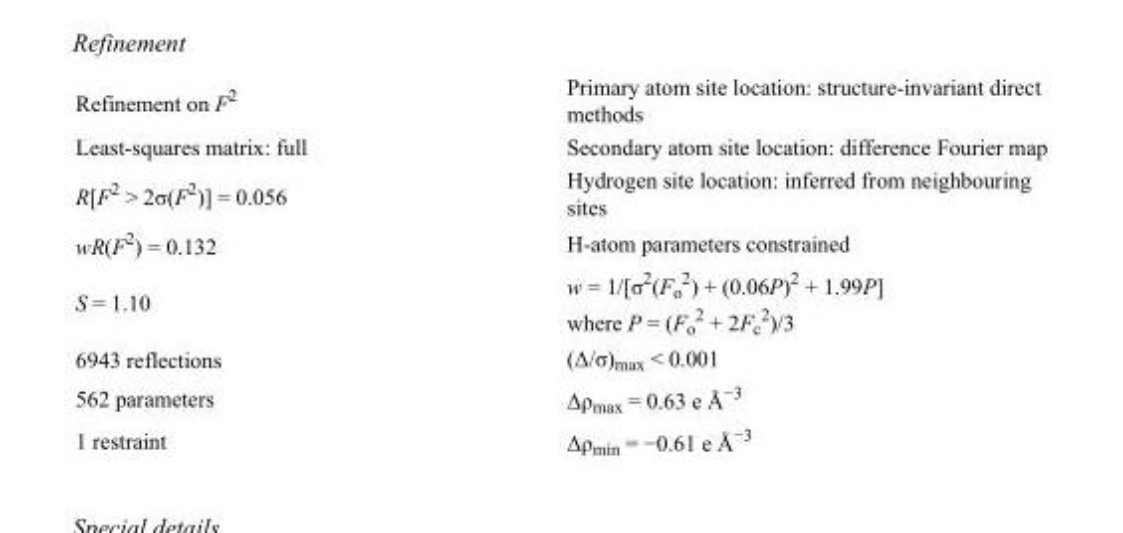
<table><tbody><tr><td>Refinement on F<sup>2</sup></td><td>Primary atom site location: structure-invariant direct methods</td></tr><tr><td>Least-squares matrix: full</td><td>Secondary atom site location: difference Fourier map</td></tr><tr><td>R[F<sup>2</sup> &gt; 2σ(F<sup>2</sup>)] = 0.056</td><td>Hydrogen site location: inferred from neighbouring sites</td></tr><tr><td>wR(F<sup>2</sup>) = 0.132</td><td>H-atom parameters constrained</td></tr><tr><td>S = 1.10</td><td>w = 1/[σ<sup>2</sup>(F<sub>o</sub> <sup>2</sup>) + (0.06P)<sup>2</sup> + 1.99P] where P = (F<sub>o</sub> <sup>2</sup> + 2F<sub>c</sub> <sup>2</sup>)/3</td></tr><tr><td>6943 reflections</td><td>(Δ/σ)<sub>max</sub> &lt; 0.001</td></tr><tr><td>562 parameters</td><td>Δρ<sub>max</sub> = 0.63 e Å<sup>−3</sup></td></tr><tr><td>1 restraint</td><td>Δρ<sub>min</sub> = −0.61 e Å<sup>−3</sup></td></tr></tbody></table>